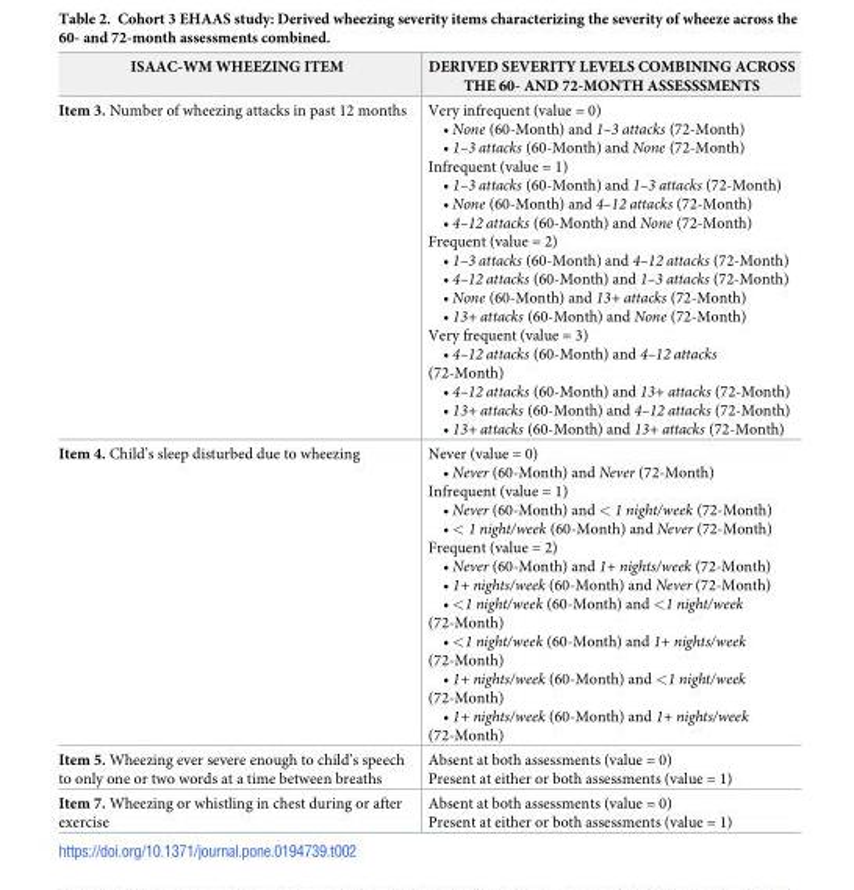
<table><thead><tr><td>ISAAC-WM WHEEZING ITEM</td><td>DERIVED SEVERITY LEVELS COMBINING ACROSS THE 60- AND 72-MONTH ASSESSSMENTS</td></tr></thead><tbody><tr><td>Item 3. Number of wheezing attacks in past 12 months</td><td>Very infrequent (value = 0) • None (60-Month) and 1–3 attacks (72-Month) • 1–3 attacks (60-Month) and None (72-Month) Infrequent (value = 1) • 1–3 attacks (60-Month) and 1–3 attacks (72-Month) • None (60-Month) and 4–12 attacks (72-Month) • 4–12 attacks (60-Month) and None (72-Month) Frequent (value = 2) • 1–3 attacks (60-Month) and 4–12 attacks (72-Month) • 4–12 attacks (60-Month) and 1–3 attacks (72-Month) • None (60-Month) and 13+ attacks (72-Month) • 13+ attacks (60-Month) and None (72-Month) Very frequent (value = 3) • 4–12 attacks (60-Month) and 4–12 attacks (72-Month) • 4–12 attacks (60-Month) and 13+ attacks (72-Month) • 13+ attacks (60-Month) and 4–12 attacks (72-Month) • 13+ attacks (60-Month) and 13+ attacks (72-Month)</td></tr><tr><td>Item 4. Child’s sleep disturbed due to wheezing</td><td>Never (value = 0) • Never (60-Month) and Never (72-Month) Infrequent (value = 1) • Never (60-Month) and &lt; 1 night/week (72-Month) • &lt; 1 night/week (60-Month) and Never (72-Month) Frequent (value = 2) • Never (60-Month) and 1+ nights/week (72-Month) • 1+ nights/week (60-Month) and Never (72-Month) • &lt;1 night/week (60-Month) and &lt;1 night/week (72-Month) • &lt;1 night/week (60-Month) and 1+ nights/week (72-Month) • 1+ nights/week (60-Month) and &lt;1 night/week (72-Month) • 1+ nights/week (60-Month) and 1+ nights/week (72-Month)</td></tr><tr><td>Item 5. Wheezing ever severe enough to child’s speech to only one or two words at a time between breaths</td><td>Absent at both assessments (value = 0) Present at either or both assessments (value = 1)</td></tr><tr><td>Item 7. Wheezing or whistling in chest during or after exercise</td><td>Absent at both assessments (value = 0) Present at either or both assessments (value = 1)</td></tr></tbody></table>